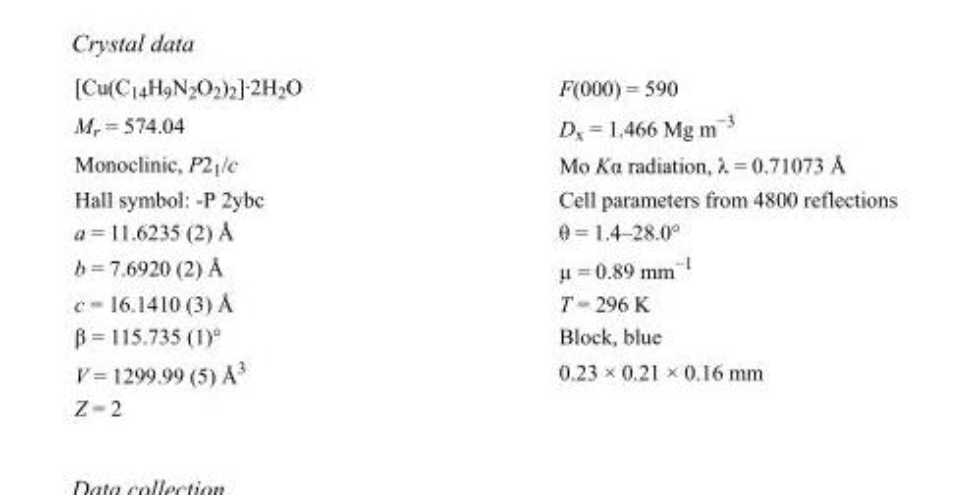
<table><tbody><tr><td>[Cu(C<sub>14</sub>H<sub>9</sub>N<sub>2</sub>O<sub>2</sub>)<sub>2</sub>]·2H<sub>2</sub>O</td><td>F(000) = 590</td></tr><tr><td>M<sub>r</sub> = 574.04</td><td>D<sub>x</sub> = 1.466 Mg m<sup>−3</sup></td></tr><tr><td>Monoclinic, P2<sub>1</sub>/c</td><td>Mo Kα radiation, λ = 0.71073 Å</td></tr><tr><td>Hall symbol: -P 2ybc</td><td>Cell parameters from 4800 reflections</td></tr><tr><td>a = 11.6235 (2) Å</td><td>θ = 1.4–28.0°</td></tr><tr><td>b = 7.6920 (2) Å</td><td>µ = 0.89 mm<sup>−1</sup></td></tr><tr><td>c = 16.1410 (3) Å</td><td>T = 296 K</td></tr><tr><td>β = 115.735 (1)°</td><td>Block, blue</td></tr><tr><td>V = 1299.99 (5) Å<sup>3</sup></td><td>0.23 × 0.21 × 0.16 mm</td></tr><tr><td>Z = 2</td><td></td></tr></tbody></table>